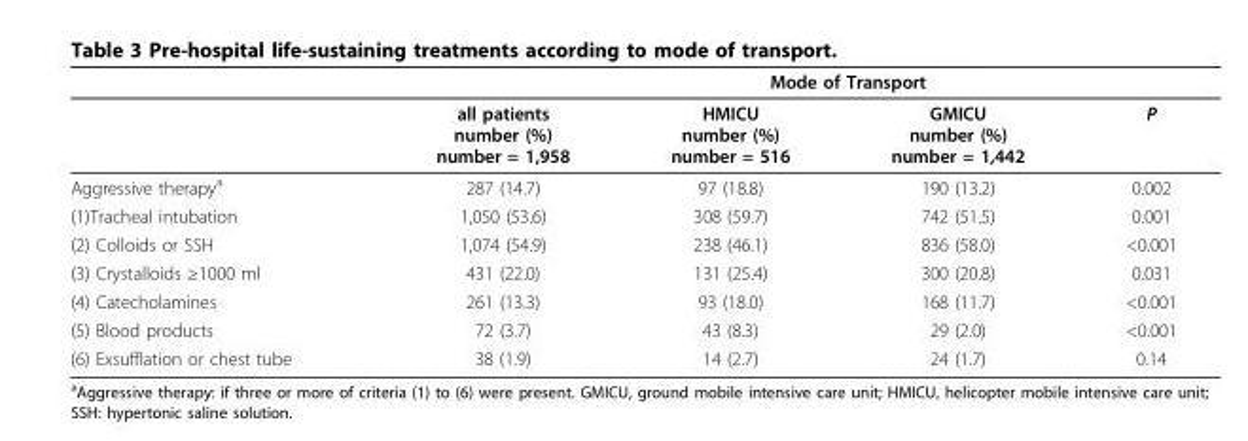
<table><thead><tr><td rowspan="2"></td><td rowspan="2">all patients number (%) number = 1,958</td><td colspan="2">Mode of Transport</td><td rowspan="2">P</td></tr><tr><td>HMICU number (%) number = 516</td><td>GMICU number (%) number = 1,442</td></tr></thead><tbody><tr><td>Aggressive therapy<sup>a</sup></td><td>287 (14.7)</td><td>97 (18.8)</td><td>190 (13.2)</td><td>0.002</td></tr><tr><td>(1)Tracheal intubation</td><td>1,050 (53.6)</td><td>308 (59.7)</td><td>742 (51.5)</td><td>0.001</td></tr><tr><td>(2) Colloids or SSH</td><td>1,074 (54.9)</td><td>238 (46.1)</td><td>836 (58.0)</td><td>&lt;0.001</td></tr><tr><td>(3) Crystalloids ≥1000 ml</td><td>431 (22.0)</td><td>131 (25.4)</td><td>300 (20.8)</td><td>0.031</td></tr><tr><td>(4) Catecholamines</td><td>261 (13.3)</td><td>93 (18.0)</td><td>168 (11.7)</td><td>&lt;0.001</td></tr><tr><td>(5) Blood products</td><td>72 (3.7)</td><td>43 (8.3)</td><td>29 (2.0)</td><td>&lt;0.001</td></tr><tr><td>(6) Exsufflation or chest tube</td><td>38 (1.9)</td><td>14 (2.7)</td><td>24 (1.7)</td><td>0.14</td></tr></tbody></table>